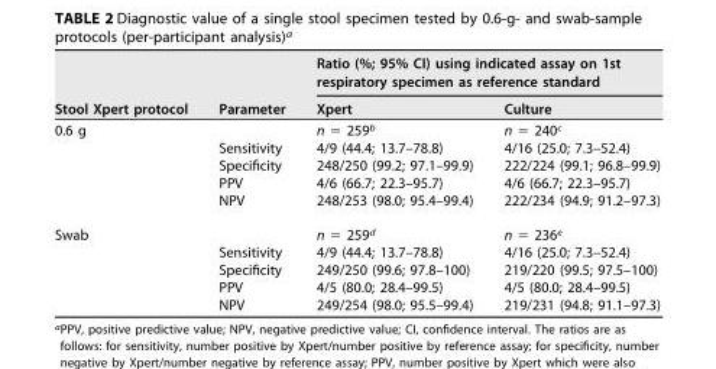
<table><thead><tr><td rowspan="2">Stool Xpert protocol</td><td rowspan="2">Parameter</td><td colspan="2">Ratio (%; 95% CI) using indicated assay on 1st respiratory specimen as reference standard</td></tr><tr><td>Xpert</td><td>Culture</td></tr></thead><tbody><tr><td rowspan="5">0.6 g</td><td></td><td>n = 259<sup>b</sup></td><td>n = 240<sup>c</sup></td></tr><tr><td>Sensitivity</td><td>4/9 (44.4; 13.7–78.8)</td><td>4/16 (25.0; 7.3–52.4)</td></tr><tr><td>Specificity</td><td>248/250 (99.2; 97.1–99.9)</td><td>222/224 (99.1; 96.8–99.9)</td></tr><tr><td>PPV</td><td>4/6 (66.7; 22.3–95.7)</td><td>4/6 (66.7; 22.3–95.7)</td></tr><tr><td>NPV</td><td>248/253 (98.0; 95.4–99.4)</td><td>222/234 (94.9; 91.2–97.3)</td></tr><tr><td rowspan="5">Swab</td><td></td><td>n = 259<sup>d</sup></td><td>n = 236<sup>e</sup></td></tr><tr><td>Sensitivity</td><td>4/9 (44.4; 13.7–78.8)</td><td>4/16 (25.0; 7.3–52.4)</td></tr><tr><td>Specificity</td><td>249/250 (99.6; 97.8–100)</td><td>219/220 (99.5; 97.5–100)</td></tr><tr><td>PPV</td><td>4/5 (80.0; 28.4–99.5)</td><td>4/5 (80.0; 28.4–99.5)</td></tr><tr><td>NPV</td><td>249/254 (98.0; 95.5–99.4)</td><td>219/231 (94.8; 91.1–97.3)</td></tr></tbody></table>